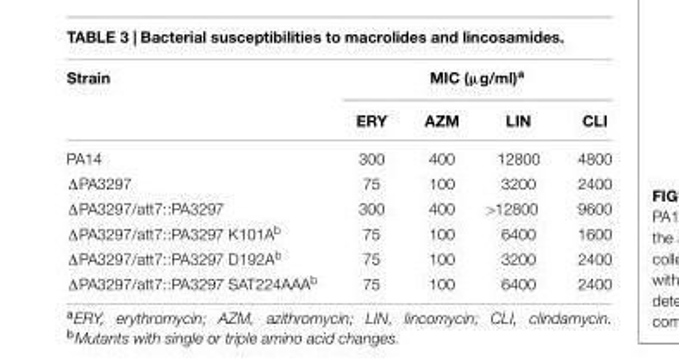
<table><thead><tr><td rowspan="2">Strain</td><td colspan="4">MIC (µg/ml)<sup>a</sup></td></tr><tr><td>ERY</td><td>AZM</td><td>LIN</td><td>CLI</td></tr></thead><tbody><tr><td>PA14</td><td>300</td><td>400</td><td>12800</td><td>4800</td></tr><tr><td>ΔPA3297</td><td>75</td><td>100</td><td>3200</td><td>2400</td></tr><tr><td>ΔPA3297/att7::PA3297</td><td>300</td><td>400</td><td>&gt;12800</td><td>9600</td></tr><tr><td>ΔPA3297/att7::PA3297 K101A<sup>b</sup></td><td>75</td><td>100</td><td>6400</td><td>1600</td></tr><tr><td>ΔPA3297/att7::PA3297 D192A<sup>b</sup></td><td>75</td><td>100</td><td>3200</td><td>2400</td></tr><tr><td>ΔPA3297/att7::PA3297 SAT224AAA<sup>b</sup></td><td>75</td><td>100</td><td>6400</td><td>2400</td></tr></tbody></table>